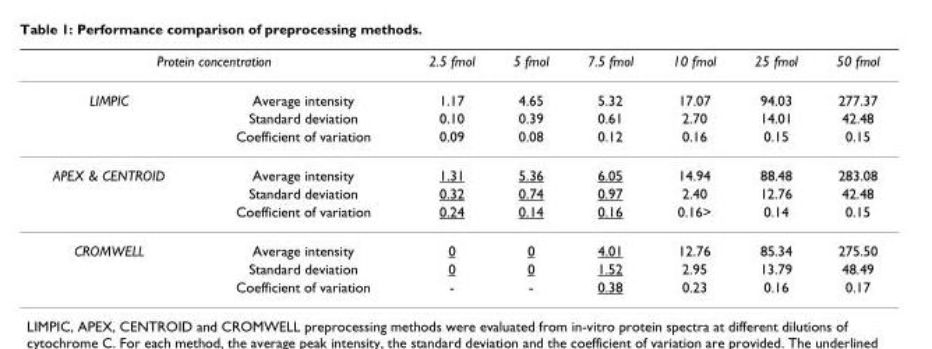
<table><thead><tr><td colspan="2">Protein concentration</td><td rowspan="2">2.5 fmol 1.17</td><td rowspan="2">5 fmol 4.65</td><td rowspan="2">7.5 fmol 5.32</td><td rowspan="2">10 fmol 17.07</td><td rowspan="2">25 fmol 94.03</td><td rowspan="2">50 fmol 277.37</td></tr><tr><td>LIMPIC</td><td>Average intensity</td></tr></thead><tbody><tr><td></td><td>Standard deviation</td><td>0.10</td><td>0.39</td><td>0.61</td><td>2.70</td><td>14.01</td><td>42.48</td></tr><tr><td></td><td>Coefficient of variation</td><td>0.09</td><td>0.08</td><td>0.12</td><td>0.16</td><td>0.15</td><td>0.15</td></tr><tr><td rowspan="3">APEX &amp; CENTROID</td><td>Average intensity</td><td>1.31</td><td>5.36</td><td>6.05</td><td>14.94</td><td>88.48</td><td>283.08</td></tr><tr><td>Standard deviation</td><td>0.32</td><td>0.74</td><td>0.97</td><td>2.40</td><td>12.76</td><td>42.48</td></tr><tr><td>Coefficient of variation</td><td>0.24</td><td>0.14</td><td>0.16</td><td>0.16&gt;</td><td>0.14</td><td>0.15</td></tr><tr><td rowspan="3">CROMWELL</td><td>Average intensity</td><td>0</td><td>0</td><td>4.01</td><td>12.76</td><td>85.34</td><td>275.50</td></tr><tr><td>Standard deviation</td><td>0</td><td>0</td><td>1.52</td><td>2.95</td><td>13.79</td><td>48.49</td></tr><tr><td>Coefficient of variation</td><td>-</td><td>-</td><td>0.38</td><td>0.23</td><td>0.16</td><td>0.17</td></tr></tbody></table>